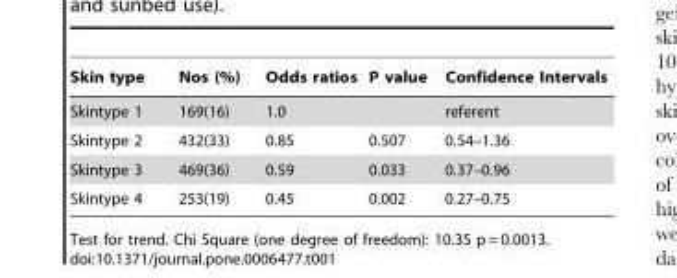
<table><thead><tr><td>Skin type</td><td>Nos (%)</td><td>Odds ratios</td><td>P value</td><td>Confidence Intervals</td></tr></thead><tbody><tr><td>Skintype 1</td><td>169(16)</td><td>1.0</td><td></td><td>referent</td></tr><tr><td>Skintype 2</td><td>432(33)</td><td>0.85</td><td>0.507</td><td>0.54–1.36</td></tr><tr><td>Skintype 3</td><td>469(36)</td><td>0.59</td><td>0.033</td><td>0.37–0.96</td></tr><tr><td>Skintype 4</td><td>253(19)</td><td>0.45</td><td>0.002</td><td>0.27–0.75</td></tr></tbody></table>